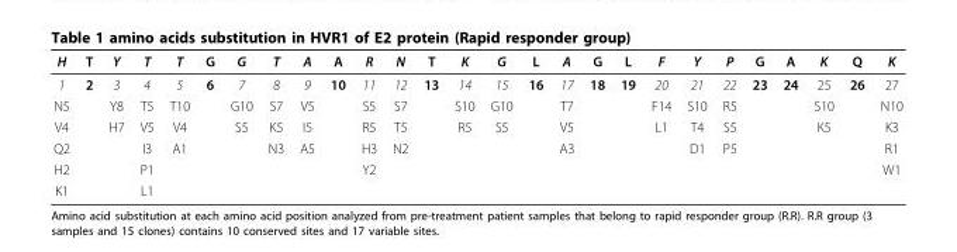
<table><thead><tr><td>H</td><td>T</td><td>Y</td><td>T</td><td>T</td><td>G</td><td>G</td><td>T</td><td>A</td><td>A</td><td>R</td><td>N</td><td>T</td><td>K</td><td>G</td><td>L</td><td>A</td><td>G</td><td>L</td><td>F</td><td>Y</td><td>P</td><td>G</td><td>A</td><td>K</td><td>Q</td><td>K</td></tr></thead><tbody><tr><td>1</td><td>2</td><td>3</td><td>4</td><td>5</td><td>6</td><td>7</td><td>8</td><td>9</td><td>10</td><td>11</td><td>12</td><td>13</td><td>14</td><td>15</td><td>16</td><td>17</td><td>18</td><td>19</td><td>20</td><td>21</td><td>22</td><td>23</td><td>24</td><td>25</td><td>26</td><td>27</td></tr><tr><td>N5</td><td></td><td>Y8</td><td>T5</td><td>T10</td><td></td><td>G10</td><td>S7</td><td>V5</td><td></td><td>S5</td><td>S7</td><td></td><td>S10</td><td>G10</td><td></td><td>T7</td><td></td><td></td><td>F14</td><td>S10</td><td>R5</td><td></td><td></td><td>S10</td><td></td><td>N10</td></tr><tr><td>V4</td><td></td><td>H7</td><td>V5</td><td>V4</td><td></td><td>S5</td><td>K5</td><td>I5</td><td></td><td>R5</td><td>T5</td><td></td><td>R5</td><td>S5</td><td></td><td>V5</td><td></td><td></td><td>L1</td><td>T4</td><td>S5</td><td></td><td></td><td>K5</td><td></td><td>K3</td></tr><tr><td>Q2</td><td></td><td></td><td>I3</td><td>A1</td><td></td><td></td><td>N3</td><td>A5</td><td></td><td>H3</td><td>N2</td><td></td><td></td><td></td><td></td><td>A3</td><td></td><td></td><td></td><td>D1</td><td>P5</td><td></td><td></td><td></td><td></td><td>R1</td></tr><tr><td>H2</td><td></td><td></td><td>P1</td><td></td><td></td><td></td><td></td><td></td><td></td><td>Y2</td><td></td><td></td><td></td><td></td><td></td><td></td><td></td><td></td><td></td><td></td><td></td><td></td><td></td><td></td><td></td><td>W1</td></tr><tr><td>K1</td><td></td><td></td><td>L1</td><td></td><td></td><td></td><td></td><td></td><td></td><td></td><td></td><td></td><td></td><td></td><td></td><td></td><td></td><td></td><td></td><td></td><td></td><td></td><td></td><td></td><td></td><td></td></tr></tbody></table>